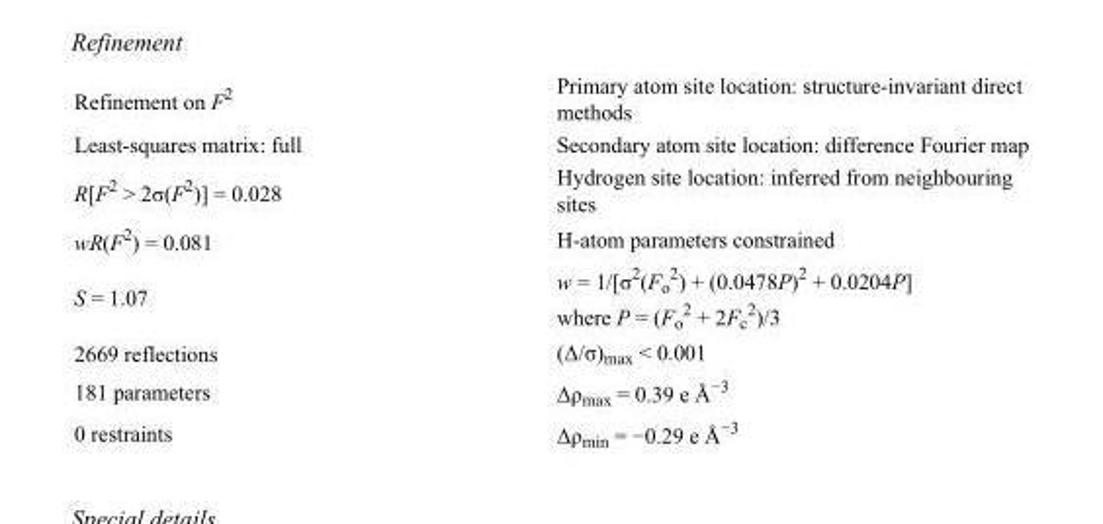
<table><tbody><tr><td>Refinement on F<sup>2</sup></td><td>Primary atom site location: structure-invariant direct methods</td></tr><tr><td>Least-squares matrix: full</td><td>Secondary atom site location: difference Fourier map</td></tr><tr><td>R[F<sup>2</sup> &gt; 2σ(F<sup>2</sup>)] = 0.028</td><td>Hydrogen site location: inferred from neighbouring sites</td></tr><tr><td>wR(F<sup>2</sup>) = 0.081</td><td>H-atom parameters constrained</td></tr><tr><td>S = 1.07</td><td>w = 1/[σ<sup>2</sup>(F<sub>o</sub> <sup>2</sup>) + (0.0478P)<sup>2</sup> + 0.0204P] where P = (F<sub>o</sub> <sup>2</sup> + 2F<sub>c</sub> <sup>2</sup>)/3</td></tr><tr><td>2669 reflections</td><td>(Δ/σ)<sub>max</sub> &lt; 0.001</td></tr><tr><td>181 parameters</td><td>Δρ<sub>max</sub> = 0.39 e Å<sup>−3</sup></td></tr><tr><td>0 restraints</td><td>Δρ<sub>min</sub> = −0.29 e Å<sup>−3</sup></td></tr></tbody></table>